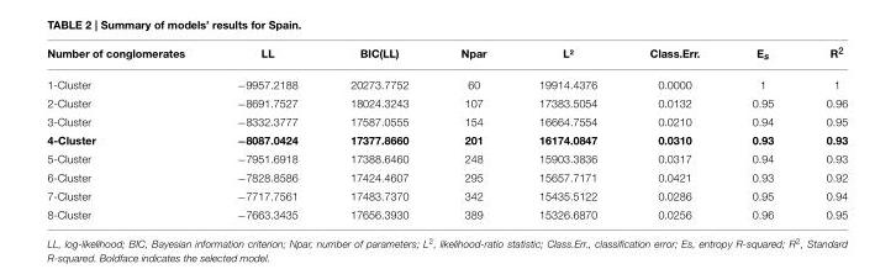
<table><thead><tr><td>Number of conglomerates</td><td>LL</td><td>BIC(LL)</td><td>Npar</td><td>L²</td><td>Class.Err.</td><td>E<sub>s</sub></td><td>R<sup>2</sup></td></tr></thead><tbody><tr><td>1-Cluster</td><td>−9957.2188</td><td>20273.7752</td><td>60</td><td>19914.4376</td><td>0.0000</td><td>1</td><td>1</td></tr><tr><td>2-Cluster</td><td>−8691.7527</td><td>18024.3243</td><td>107</td><td>17383.5054</td><td>0.0132</td><td>0.95</td><td>0.96</td></tr><tr><td>3-Cluster</td><td>−8332.3777</td><td>17587.0555</td><td>154</td><td>16664.7554</td><td>0.0210</td><td>0.94</td><td>0.95</td></tr><tr><td>4-Cluster</td><td>−8087.0424</td><td>17377.8660</td><td>201</td><td>16174.0847</td><td>0.0310</td><td>0.93</td><td>0.93</td></tr><tr><td>5-Cluster</td><td>−7951.6918</td><td>17388.6460</td><td>248</td><td>15903.3836</td><td>0.0317</td><td>0.94</td><td>0.93</td></tr><tr><td>6-Cluster</td><td>−7828.8586</td><td>17424.4607</td><td>295</td><td>15657.7171</td><td>0.0421</td><td>0.93</td><td>0.92</td></tr><tr><td>7-Cluster</td><td>−7717.7561</td><td>17483.7370</td><td>342</td><td>15435.5122</td><td>0.0286</td><td>0.95</td><td>0.94</td></tr><tr><td>8-Cluster</td><td>−7663.3435</td><td>17656.3930</td><td>389</td><td>15326.6870</td><td>0.0256</td><td>0.96</td><td>0.95</td></tr></tbody></table>